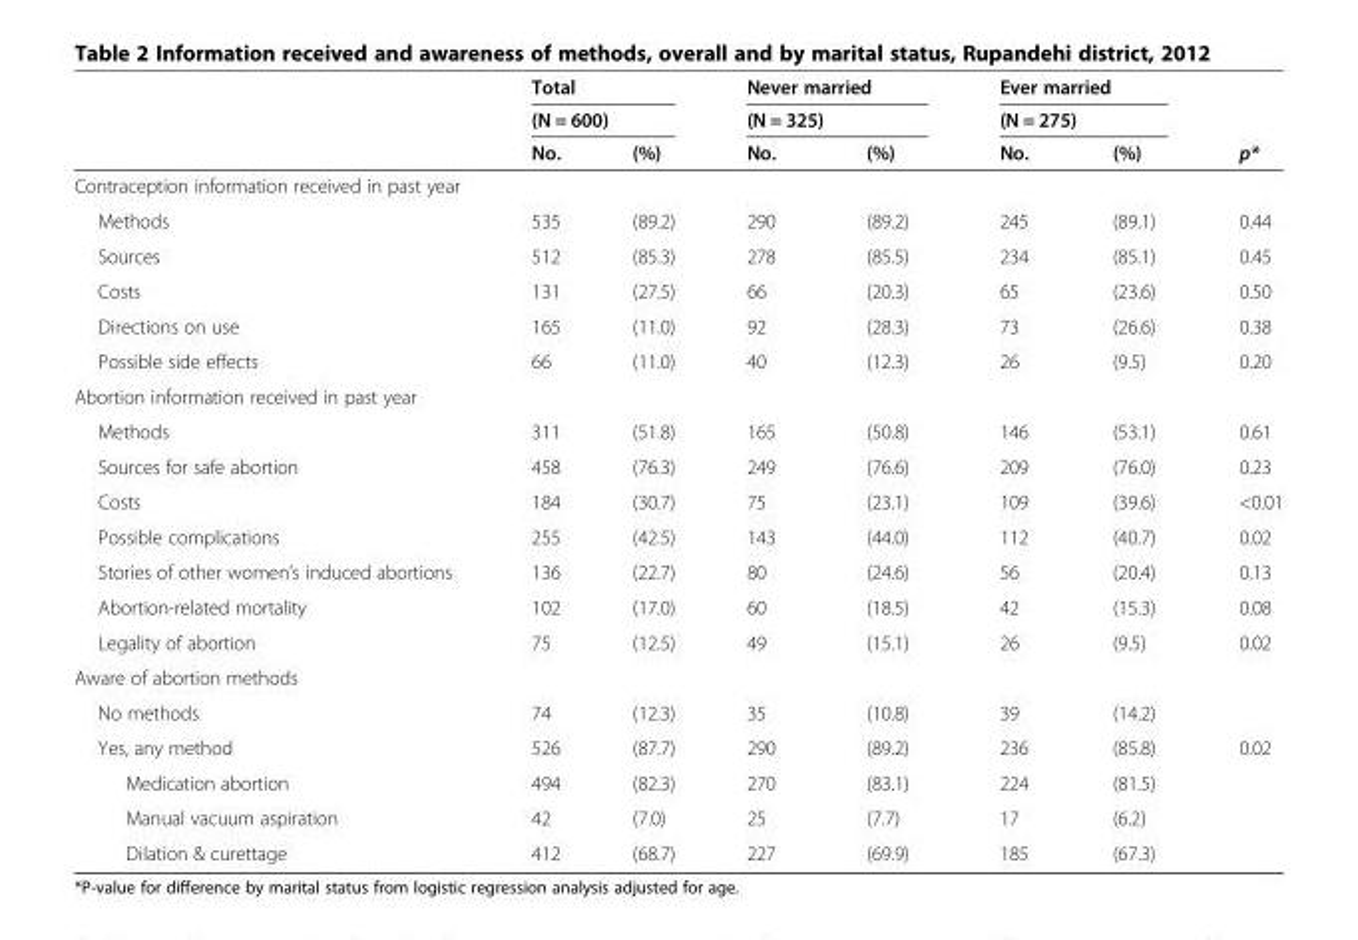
<table><thead><tr><td rowspan="3"></td><td rowspan="2" colspan="2">Total (N = 600)</td><td rowspan="2" colspan="2">Never married (N = 325)</td><td rowspan="2" colspan="2">Ever married (N = 275)</td><td rowspan="3">p*</td></tr><tr></tr><tr><td>No.</td><td>(%)</td><td>No.</td><td>(%)</td><td>No.</td><td>(%)</td></tr></thead><tbody><tr><td colspan="8">Contraception information received in past year</td></tr><tr><td>Methods</td><td>535</td><td>(89.2)</td><td>290</td><td>(89.2)</td><td>245</td><td>(89.1)</td><td>0.44</td></tr><tr><td>Sources</td><td>512</td><td>(85.3)</td><td>278</td><td>(85.5)</td><td>234</td><td>(85.1)</td><td>0.45</td></tr><tr><td>Costs</td><td>131</td><td>(27.5)</td><td>66</td><td>(20.3)</td><td>65</td><td>(23.6)</td><td>0.50</td></tr><tr><td>Directions on use</td><td>165</td><td>(11.0)</td><td>92</td><td>(28.3)</td><td>73</td><td>(26.6)</td><td>0.38</td></tr><tr><td>Possible side effects</td><td>66</td><td>(11.0)</td><td>40</td><td>(12.3)</td><td>26</td><td>(9.5)</td><td>0.20</td></tr><tr><td colspan="8">Abortion information received in past year</td></tr><tr><td>Methods</td><td>311</td><td>(51.8)</td><td>165</td><td>(50.8)</td><td>146</td><td>(53.1)</td><td>0.61</td></tr><tr><td>Sources for safe abortion</td><td>458</td><td>(76.3)</td><td>249</td><td>(76.6)</td><td>209</td><td>(76.0)</td><td>0.23</td></tr><tr><td>Costs</td><td>184</td><td>(30.7)</td><td>75</td><td>(23.1)</td><td>109</td><td>(39.6)</td><td>&lt;0.01</td></tr><tr><td>Possible complications</td><td>255</td><td>(42.5)</td><td>143</td><td>(44.0)</td><td>112</td><td>(40.7)</td><td>0.02</td></tr><tr><td>Stories of other women’s induced abortions</td><td>136</td><td>(22.7)</td><td>80</td><td>(24.6)</td><td>56</td><td>(20.4)</td><td>0.13</td></tr><tr><td>Abortion-related mortality</td><td>102</td><td>(17.0)</td><td>60</td><td>(18.5)</td><td>42</td><td>(15.3)</td><td>0.08</td></tr><tr><td>Legality of abortion</td><td>75</td><td>(12.5)</td><td>49</td><td>(15.1)</td><td>26</td><td>(9.5)</td><td>0.02</td></tr><tr><td colspan="8">Aware of abortion methods</td></tr><tr><td>No methods</td><td>74</td><td>(12.3)</td><td>35</td><td>(10.8)</td><td>39</td><td>(14.2)</td><td></td></tr><tr><td>Yes, any method</td><td>526</td><td>(87.7)</td><td>290</td><td>(89.2)</td><td>236</td><td>(85.8)</td><td>0.02</td></tr><tr><td>Medication abortion</td><td>494</td><td>(82.3)</td><td>270</td><td>(83.1)</td><td>224</td><td>(81.5)</td><td></td></tr><tr><td>Manual vacuum aspiration</td><td>42</td><td>(7.0)</td><td>25</td><td>(7.7)</td><td>17</td><td>(6.2)</td><td></td></tr><tr><td>Dilation &amp; curettage</td><td>412</td><td>(68.7)</td><td>227</td><td>(69.9)</td><td>185</td><td>(67.3)</td><td></td></tr></tbody></table>